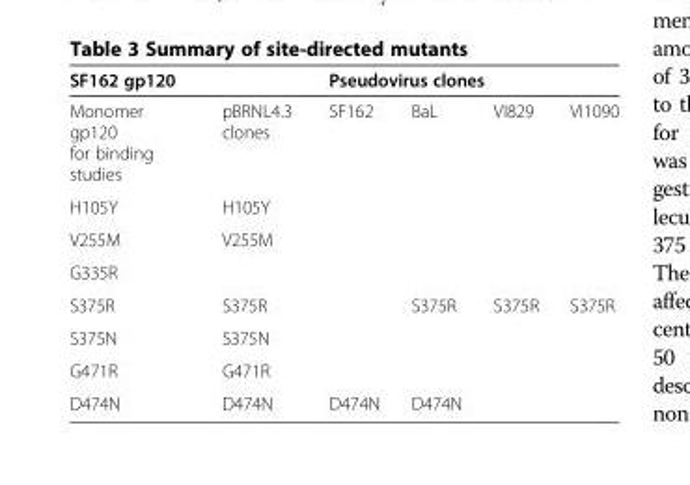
<table><thead><tr><td colspan="2">SF162 gp120</td><td colspan="4">Pseudovirus clones</td></tr><tr><td>Monomer gp120 for binding studies</td><td>pBRNL4.3 clones</td><td>SF162</td><td>BaL</td><td>VI829</td><td>VI1090</td></tr></thead><tbody><tr><td>H105Y</td><td>H105Y</td><td></td><td></td><td></td><td></td></tr><tr><td>V255M</td><td>V255M</td><td></td><td></td><td></td><td></td></tr><tr><td colspan="6">G335R</td></tr><tr><td>S375R</td><td>S375R</td><td></td><td>S375R</td><td>S375R</td><td>S375R</td></tr><tr><td>S375N</td><td>S375N</td><td></td><td></td><td></td><td></td></tr><tr><td>G471R</td><td>G471R</td><td></td><td></td><td></td><td></td></tr><tr><td>D474N</td><td>D474N</td><td>D474N</td><td>D474N</td><td></td><td></td></tr></tbody></table>